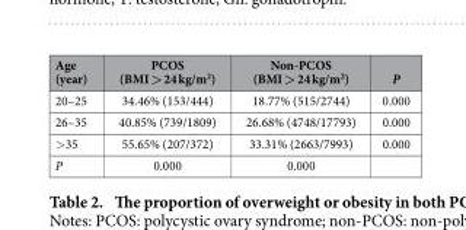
<table><thead><tr><td>Age (year)</td><td>PCOS (BMI &gt; 24 kg/m<sup>2</sup>)</td><td>Non-PCOS (BMI &gt; 24 kg/m<sup>2</sup>)</td><td>P</td></tr></thead><tbody><tr><td>20–25</td><td>34.46% (153/444)</td><td>18.77% (515/2744)</td><td>0.000</td></tr><tr><td>26–35</td><td>40.85% (739/1809)</td><td>26.68% (4748/17793)</td><td>0.000</td></tr><tr><td>&gt; 35</td><td>55.65% (207/372)</td><td>33.31% (2663/7993)</td><td>0.000</td></tr><tr><td>P</td><td>0.000</td><td>0.000</td><td></td></tr></tbody></table>